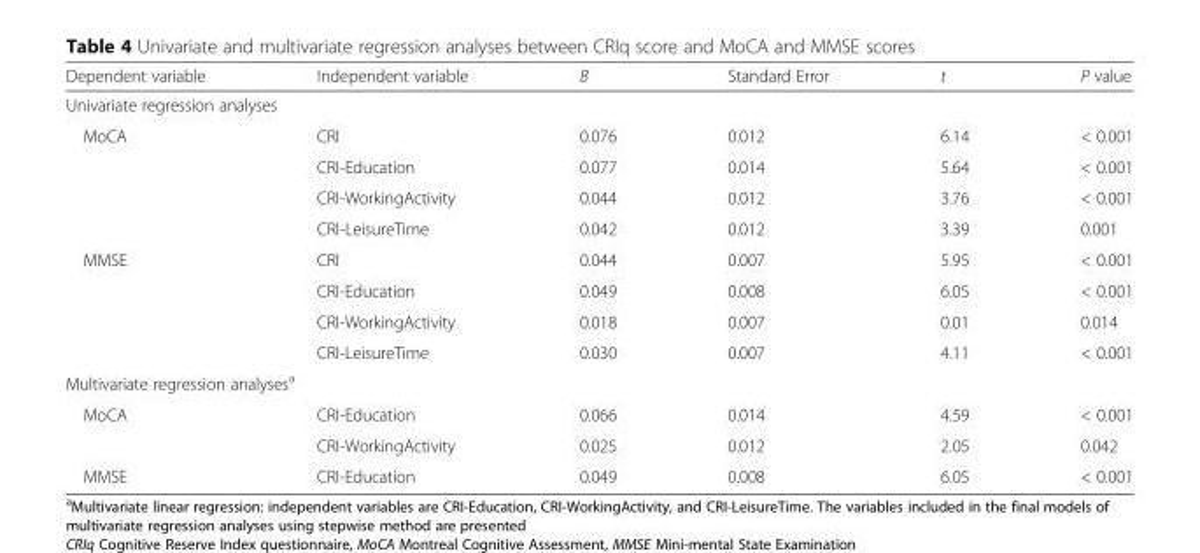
<table><thead><tr><td>Dependent variable</td><td>Independent variable</td><td>B</td><td>Standard Error</td><td>t</td><td>P value</td></tr></thead><tbody><tr><td colspan="6">Univariate regression analyses</td></tr><tr><td rowspan="4">MoCA</td><td>CRI</td><td>0.076</td><td>0.012</td><td>6.14</td><td>&lt; 0.001</td></tr><tr><td>CRI-Education</td><td>0.077</td><td>0.014</td><td>5.64</td><td>&lt; 0.001</td></tr><tr><td>CRI-WorkingActivity</td><td>0.044</td><td>0.012</td><td>3.76</td><td>&lt; 0.001</td></tr><tr><td>CRI-LeisureTime</td><td>0.042</td><td>0.012</td><td>3.39</td><td>0.001</td></tr><tr><td rowspan="4">MMSE</td><td>CRI</td><td>0.044</td><td>0.007</td><td>5.95</td><td>&lt; 0.001</td></tr><tr><td>CRI-Education</td><td>0.049</td><td>0.008</td><td>6.05</td><td>&lt; 0.001</td></tr><tr><td>CRI-WorkingActivity</td><td>0.018</td><td>0.007</td><td>0.01</td><td>0.014</td></tr><tr><td>CRI-LeisureTime</td><td>0.030</td><td>0.007</td><td>4.11</td><td>&lt; 0.001</td></tr><tr><td colspan="6">Multivariate regression analyses<sup>a</sup></td></tr><tr><td rowspan="2">MoCA</td><td>CRI-Education</td><td>0.066</td><td>0.014</td><td>4.59</td><td>&lt; 0.001</td></tr><tr><td>CRI-WorkingActivity</td><td>0.025</td><td>0.012</td><td>2.05</td><td>0.042</td></tr><tr><td>MMSE</td><td>CRI-Education</td><td>0.049</td><td>0.008</td><td>6.05</td><td>&lt; 0.001</td></tr></tbody></table>